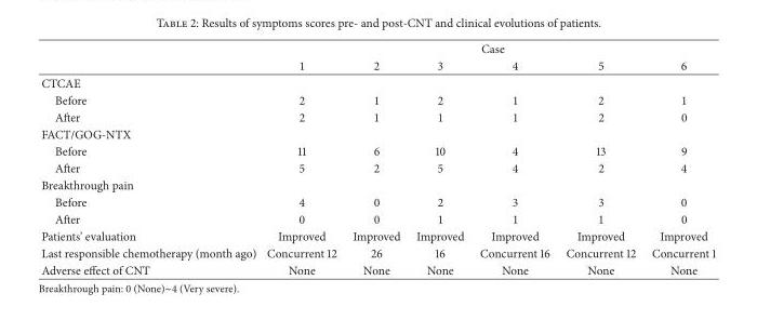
<table><thead><tr><td rowspan="2"></td><td colspan="6">Case</td></tr><tr><td>1</td><td>2</td><td>3</td><td>4</td><td>5</td><td>6</td></tr></thead><tbody><tr><td colspan="7">CTCAE</td></tr><tr><td>Before</td><td>2</td><td>1</td><td>2</td><td>1</td><td>2</td><td>1</td></tr><tr><td>After</td><td>2</td><td>1</td><td>1</td><td>1</td><td>2</td><td>0</td></tr><tr><td colspan="7">FACT/GOG-NTX</td></tr><tr><td>Before</td><td>11</td><td>6</td><td>10</td><td>4</td><td>13</td><td>9</td></tr><tr><td>After</td><td>5</td><td>2</td><td>5</td><td>4</td><td>2</td><td>4</td></tr><tr><td colspan="7">Breakthrough pain</td></tr><tr><td>Before</td><td>4</td><td>0</td><td>2</td><td>3</td><td>3</td><td>0</td></tr><tr><td>After</td><td>0</td><td>0</td><td>1</td><td>1</td><td>1</td><td>0</td></tr><tr><td>Patients’ evaluation</td><td>Improved</td><td>Improved</td><td>Improved</td><td>Improved</td><td>Improved</td><td>Improved</td></tr><tr><td>Last responsible chemotherapy (month ago)</td><td>Concurrent 12</td><td>26</td><td>16</td><td>Concurrent 16</td><td>Concurrent 12</td><td>Concurrent 1</td></tr><tr><td>Adverse effect of CNT</td><td>None</td><td>None</td><td>None</td><td>None</td><td>None</td><td>None</td></tr></tbody></table>